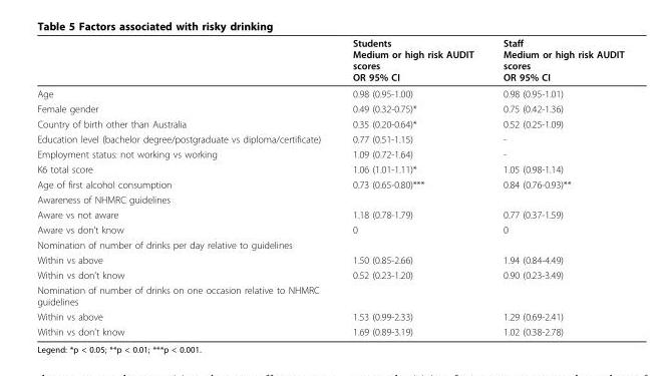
<table><thead><tr><td></td><td>Students Medium or high risk AUDIT scores OR 95% CI</td><td>Staff Medium or high risk AUDIT scores OR 95% CI</td></tr></thead><tbody><tr><td>Age</td><td>0.98 (0.95-1.00)</td><td>0.98 (0.95-1.01)</td></tr><tr><td>Female gender</td><td>0.49 (0.32-0.75)*</td><td>0.75 (0.42-1.36)</td></tr><tr><td>Country of birth other than Australia</td><td>0.35 (0.20-0.64)*</td><td>0.52 (0.25-1.09)</td></tr><tr><td>Education level (bachelor degree/postgraduate vs diploma/certificate)</td><td>0.77 (0.51-1.15)</td><td>-</td></tr><tr><td>Employment status: not working vs working</td><td>1.09 (0.72-1.64)</td><td>-</td></tr><tr><td>K6 total score</td><td>1.06 (1.01-1.11)*</td><td>1.05 (0.98-1.14)</td></tr><tr><td>Age of first alcohol consumption</td><td>0.73 (0.65-0.80)***</td><td>0.84 (0.76-0.93)**</td></tr><tr><td colspan="3">Awareness of NHMRC guidelines</td></tr><tr><td>Aware vs not aware</td><td>1.18 (0.78-1.79)</td><td>0.77 (0.37-1.59)</td></tr><tr><td>Aware vs don’t know</td><td>0</td><td>0</td></tr><tr><td colspan="3">Nomination of number of drinks per day relative to guidelines</td></tr><tr><td>Within vs above</td><td>1.50 (0.85-2.66)</td><td>1.94 (0.84-4.49)</td></tr><tr><td>Within vs don’t know</td><td>0.52 (0.23-1.20)</td><td>0.90 (0.23-3.49)</td></tr><tr><td colspan="3">Nomination of number of drinks on one occasion relative to NHMRC guidelines</td></tr><tr><td>Within vs above</td><td>1.53 (0.99-2.33)</td><td>1.29 (0.69-2.41)</td></tr><tr><td>Within vs don’t know</td><td>1.69 (0.89-3.19)</td><td>1.02 (0.38-2.78)</td></tr></tbody></table>